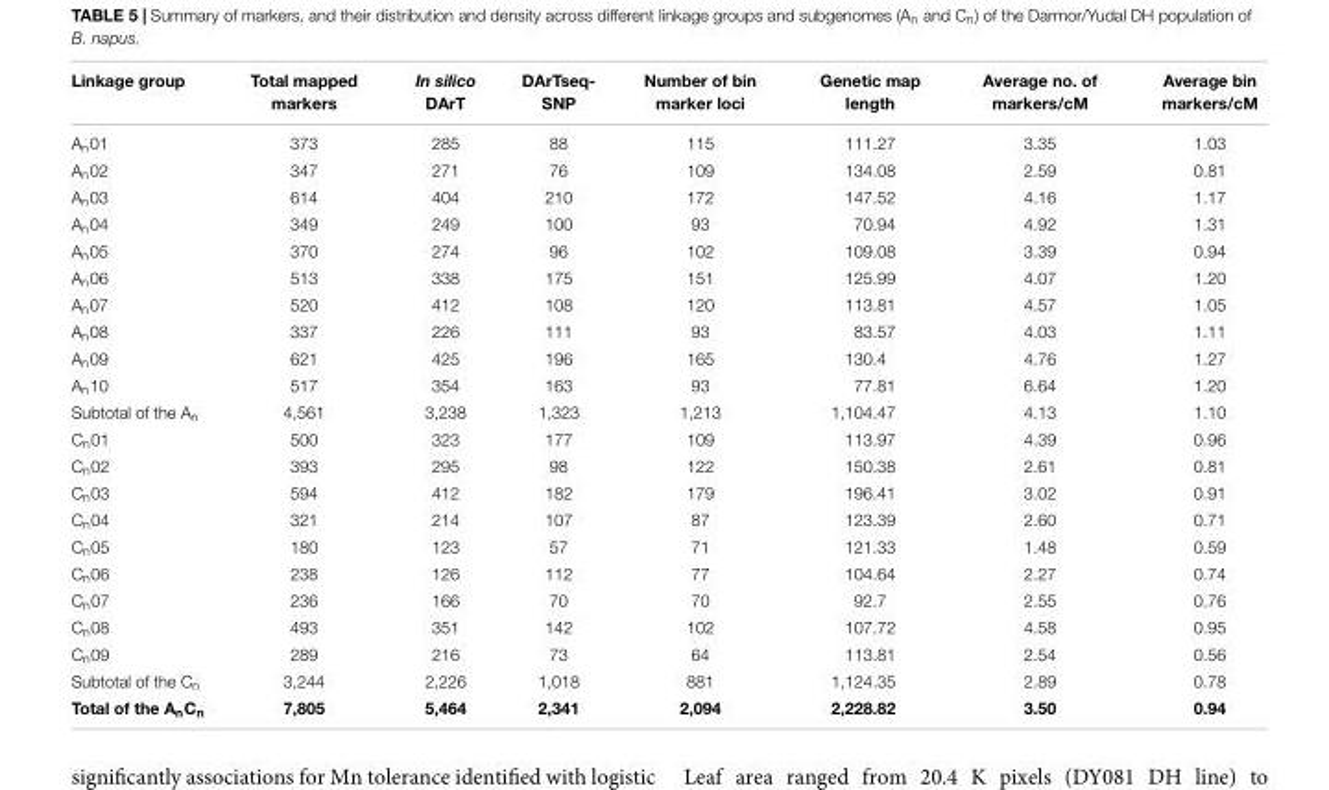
<table><thead><tr><td>Linkage group</td><td>Total mapped markers</td><td>In silico DArT</td><td>DArTseq- SNP</td><td>Number of bin marker loci</td><td>Genetic map length</td><td>Average no. of markers/cM</td><td>Average bin markers/cM</td></tr></thead><tbody><tr><td>A<sub>n</sub>01</td><td>373</td><td>285</td><td>88</td><td>115</td><td>111.27</td><td>3.35</td><td>1.03</td></tr><tr><td>A<sub>n</sub>02</td><td>347</td><td>271</td><td>76</td><td>109</td><td>134.08</td><td>2.59</td><td>0.81</td></tr><tr><td>A<sub>n</sub>03</td><td>614</td><td>404</td><td>210</td><td>172</td><td>147.52</td><td>4.16</td><td>1.17</td></tr><tr><td>A<sub>n</sub>04</td><td>349</td><td>249</td><td>100</td><td>93</td><td>70.94</td><td>4.92</td><td>1.31</td></tr><tr><td>A<sub>n</sub>05</td><td>370</td><td>274</td><td>96</td><td>102</td><td>109.08</td><td>3.39</td><td>0.94</td></tr><tr><td>A<sub>n</sub>06</td><td>513</td><td>338</td><td>175</td><td>151</td><td>125.99</td><td>4.07</td><td>1.20</td></tr><tr><td>A<sub>n</sub>07</td><td>520</td><td>412</td><td>108</td><td>120</td><td>113.81</td><td>4.57</td><td>1.05</td></tr><tr><td>A<sub>n</sub>08</td><td>337</td><td>226</td><td>111</td><td>93</td><td>83.57</td><td>4.03</td><td>1.11</td></tr><tr><td>A<sub>n</sub>09</td><td>621</td><td>425</td><td>196</td><td>165</td><td>130.4</td><td>4.76</td><td>1.27</td></tr><tr><td>A<sub>n</sub>10</td><td>517</td><td>354</td><td>163</td><td>93</td><td>77.81</td><td>6.64</td><td>1.20</td></tr><tr><td>Subtotal of the A<sub>n</sub></td><td>4,561</td><td>3,238</td><td>1,323</td><td>1,213</td><td>1,104.47</td><td>4.13</td><td>1.10</td></tr><tr><td>C<sub>n</sub>01</td><td>500</td><td>323</td><td>177</td><td>109</td><td>113.97</td><td>4.39</td><td>0.96</td></tr><tr><td>C<sub>n</sub>02</td><td>393</td><td>295</td><td>98</td><td>122</td><td>150.38</td><td>2.61</td><td>0.81</td></tr><tr><td>C<sub>n</sub>03</td><td>594</td><td>412</td><td>182</td><td>179</td><td>196.41</td><td>3.02</td><td>0.91</td></tr><tr><td>C<sub>n</sub>04</td><td>321</td><td>214</td><td>107</td><td>87</td><td>123.39</td><td>2.60</td><td>0.71</td></tr><tr><td>C<sub>n</sub>05</td><td>180</td><td>123</td><td>57</td><td>71</td><td>121.33</td><td>1.48</td><td>0.59</td></tr><tr><td>C<sub>n</sub>06</td><td>238</td><td>126</td><td>112</td><td>77</td><td>104.64</td><td>2.27</td><td>0.74</td></tr><tr><td>C<sub>n</sub>07</td><td>236</td><td>166</td><td>70</td><td>70</td><td>92.7</td><td>2.55</td><td>0.76</td></tr><tr><td>C<sub>n</sub>08</td><td>493</td><td>351</td><td>142</td><td>102</td><td>107.72</td><td>4.58</td><td>0.95</td></tr><tr><td>C<sub>n</sub>09</td><td>289</td><td>216</td><td>73</td><td>64</td><td>113.81</td><td>2.54</td><td>0.56</td></tr><tr><td>Subtotal of the C<sub>n</sub></td><td>3,244</td><td>2,226</td><td>1,018</td><td>881</td><td>1,124.35</td><td>2.89</td><td>0.78</td></tr><tr><td>Total of the A<sub>n</sub>C<sub>n</sub></td><td>7,805</td><td>5,464</td><td>2,341</td><td>2,094</td><td>2,228.82</td><td>3.50</td><td>0.94</td></tr></tbody></table>